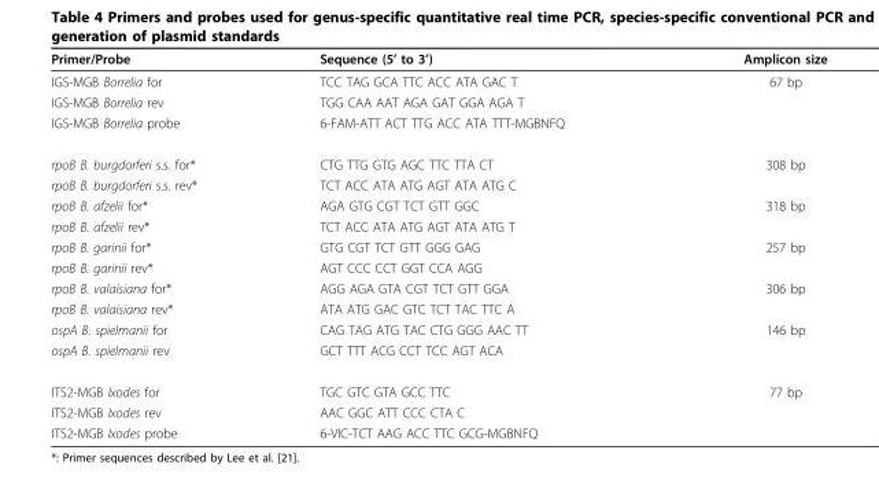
<table><thead><tr><td>Primer/Probe</td><td>Sequence (5’ to 3’)</td><td>Amplicon size</td></tr></thead><tbody><tr><td>IGS-MGB Borrelia for</td><td>TCC TAG GCA TTC ACC ATA GAC T</td><td>67 bp</td></tr><tr><td>IGS-MGB Borrelia rev</td><td>TGG CAA AAT AGA GAT GGA AGA T</td><td></td></tr><tr><td>IGS-MGB Borrelia probe</td><td>6-FAM-ATT ACT TTG ACC ATA TTT-MGBNFQ</td><td></td></tr><tr><td>rpoB B. burgdorferi s.s. for*</td><td>CTG TTG GTG AGC TTC TTA CT</td><td>308 bp</td></tr><tr><td>rpoB B. burgdorferi s.s. rev*</td><td>TCT ACC ATA ATG AGT ATA ATG C</td><td></td></tr><tr><td>rpoB B. afzelii for*</td><td>AGA GTG CGT TCT GTT GGC</td><td>318 bp</td></tr><tr><td>rpoB B. afzelii rev*</td><td>TCT ACC ATA ATG AGT ATA ATG T</td><td></td></tr><tr><td>rpoB B. garinii for*</td><td>GTG CGT TCT GTT GGG GAG</td><td>257 bp</td></tr><tr><td>rpoB B. garinii rev*</td><td>AGT CCC CCT GGT CCA AGG</td><td></td></tr><tr><td>rpoB B. valaisiana for*</td><td>AGG AGA GTA CGT TCT GTT GGA</td><td>306 bp</td></tr><tr><td>rpoB B. valaisiana rev*</td><td>ATA ATG GAC GTC TCT TAC TTC A</td><td></td></tr><tr><td>ospA B. spielmanii for</td><td>CAG TAG ATG TAC CTG GGG AAC TT</td><td>146 bp</td></tr><tr><td>ospA B. spielmanii rev</td><td>GCT TTT ACG CCT TCC AGT ACA</td><td></td></tr><tr><td>ITS2-MGB Ixodes for</td><td>TGC GTC GTA GCC TTC</td><td>77 bp</td></tr><tr><td>ITS2-MGB Ixodes rev</td><td>AAC GGC ATT CCC CTA C</td><td></td></tr><tr><td>ITS2-MGB Ixodes probe</td><td>6-VIC-TCT AAG ACC TTC GCG-MGBNFQ</td><td></td></tr></tbody></table>